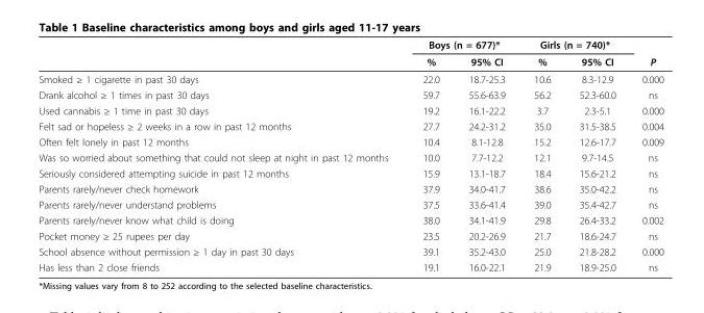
<table><thead><tr><td rowspan="2"></td><td colspan="2">Boys (n = 677)*</td><td colspan="2">Girls (n = 740)*</td><td rowspan="2">P</td></tr><tr><td>%</td><td>95% CI</td><td>%</td><td>95% CI</td></tr></thead><tbody><tr><td>Smoked ≥ 1 cigarette in past 30 days</td><td>22.0</td><td>18.7-25.3</td><td>10.6</td><td>8.3-12.9</td><td>0.000</td></tr><tr><td>Drank alcohol ≥ 1 times in past 30 days</td><td>59.7</td><td>55.6-63.9</td><td>56.2</td><td>52.3-60.0</td><td>ns</td></tr><tr><td>Used cannabis ≥ 1 time in past 30 days</td><td>19.2</td><td>16.1-22.2</td><td>3.7</td><td>2.3-5.1</td><td>0.000</td></tr><tr><td>Felt sad or hopeless ≥ 2 weeks in a row in past 12 months</td><td>27.7</td><td>24.2-31.2</td><td>35.0</td><td>31.5-38.5</td><td>0.004</td></tr><tr><td>Often felt lonely in past 12 months</td><td>10.4</td><td>8.1-12.8</td><td>15.2</td><td>12.6-17.7</td><td>0.009</td></tr><tr><td>Was so worried about something that could not sleep at night in past 12 months</td><td>10.0</td><td>7.7-12.2</td><td>12.1</td><td>9.7-14.5</td><td>ns</td></tr><tr><td>Seriously considered attempting suicide in past 12 months</td><td>15.9</td><td>13.1-18.7</td><td>18.4</td><td>15.6-21.2</td><td>ns</td></tr><tr><td>Parents rarely/never check homework</td><td>37.9</td><td>34.0-41.7</td><td>38.6</td><td>35.0-42.2</td><td>ns</td></tr><tr><td>Parents rarely/never understand problems</td><td>37.5</td><td>33.6-41.4</td><td>39.0</td><td>35.4-42.7</td><td>ns</td></tr><tr><td>Parents rarely/never know what child is doing</td><td>38.0</td><td>34.1-41.9</td><td>29.8</td><td>26.4-33.2</td><td>0.002</td></tr><tr><td>Pocket money ≥ 25 rupees per day</td><td>23.5</td><td>20.2-26.9</td><td>21.7</td><td>18.6-24.7</td><td>ns</td></tr><tr><td>School absence without permission ≥ 1 day in past 30 days</td><td>39.1</td><td>35.2-43.0</td><td>25.0</td><td>21.8-28.2</td><td>0.000</td></tr><tr><td>Has less than 2 close friends</td><td>19.1</td><td>16.0-22.1</td><td>21.9</td><td>18.9-25.0</td><td>ns</td></tr></tbody></table>